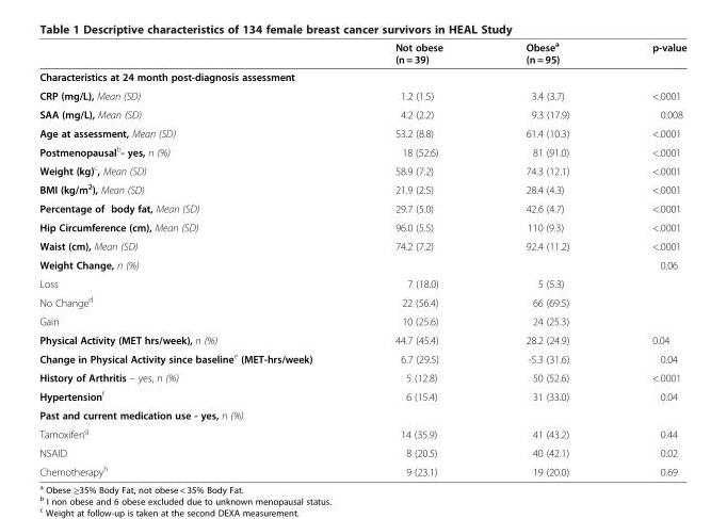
<table><thead><tr><td></td><td>Not obese (n = 39)</td><td>Obese<sup>a</sup> (n = 95)</td><td>p-value</td></tr></thead><tbody><tr><td colspan="4">Characteristics at 24 month post-diagnosis assessment</td></tr><tr><td>CRP (mg/L), Mean (SD)</td><td>1.2 (1.5)</td><td>3.4 (3.7)</td><td>&lt;.0001</td></tr><tr><td>SAA (mg/L), Mean (SD)</td><td>4.2 (2.2)</td><td>9.3 (17.9)</td><td>0.008</td></tr><tr><td>Age at assessment, Mean (SD)</td><td>53.2 (8.8)</td><td>61.4 (10.3)</td><td>&lt;.0001</td></tr><tr><td>Postmenopausal<sup>b</sup>- yes, n (%)</td><td>18 (52.6)</td><td>81 (91.0)</td><td>&lt;.0001</td></tr><tr><td>Weight (kg)<sup>c</sup>, Mean (SD)</td><td>58.9 (7.2)</td><td>74.3 (12.1)</td><td>&lt;.0001</td></tr><tr><td>BMI (kg/m<sup>2</sup>), Mean (SD)</td><td>21.9 (2.5)</td><td>28.4 (4.3)</td><td>&lt;.0001</td></tr><tr><td>Percentage of body fat, Mean (SD)</td><td>29.7 (5.0)</td><td>42.6 (4.7)</td><td>&lt;.0001</td></tr><tr><td>Hip Circumference (cm), Mean (SD)</td><td>96.0 (5.5)</td><td>110 (9.3)</td><td>&lt;.0001</td></tr><tr><td>Waist (cm), Mean (SD)</td><td>74.2 (7.2)</td><td>92.4 (11.2)</td><td>&lt;.0001</td></tr><tr><td>Weight Change, n (%)</td><td></td><td></td><td>0.06</td></tr><tr><td>Loss</td><td>7 (18.0)</td><td>5 (5.3)</td><td></td></tr><tr><td>No Change<sup>d</sup></td><td>22 (56.4)</td><td>66 (69.5)</td><td></td></tr><tr><td>Gain</td><td>10 (25.6)</td><td>24 (25.3)</td><td></td></tr><tr><td>Physical Activity (MET hrs/week), n (%)</td><td>44.7 (45.4)</td><td>28.2 (24.9)</td><td>0.04</td></tr><tr><td>Change in Physical Activity since baseline<sup>e</sup> (MET-hrs/week)</td><td>6.7 (29.5)</td><td>-5.3 (31.6)</td><td>0.04</td></tr><tr><td>History of Arthritis – yes, n (%)</td><td>5 (12.8)</td><td>50 (52.6)</td><td>&lt;.0001</td></tr><tr><td>Hypertension<sup>f</sup></td><td>6 (15.4)</td><td>31 (33.0)</td><td>0.04</td></tr><tr><td colspan="4">Past and current medication use - yes, n (%)</td></tr><tr><td>Tamoxifen<sup>g</sup></td><td>14 (35.9)</td><td>41 (43.2)</td><td>0.44</td></tr><tr><td>NSAID</td><td>8 (20.5)</td><td>40 (42.1)</td><td>0.02</td></tr><tr><td>Chemotherapy<sup>h</sup></td><td>9 (23.1)</td><td>19 (20.0)</td><td>0.69</td></tr></tbody></table>